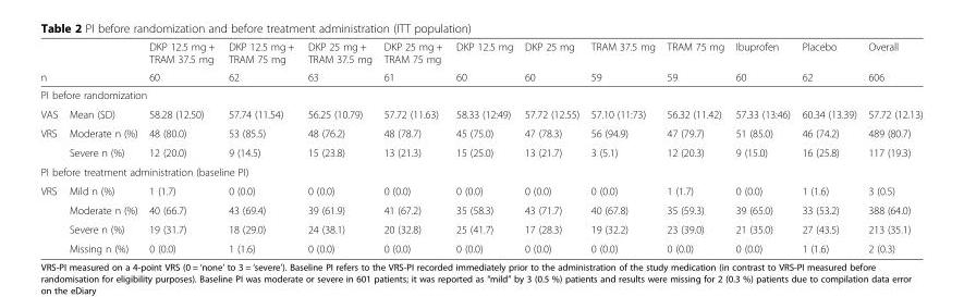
<table><thead><tr><td></td><td></td><td rowspan="2">DKP 12.5 mg + TRAM 37.5 mg 60</td><td rowspan="2">DKP 12.5 mg + TRAM 75 mg 62</td><td rowspan="2">DKP 25 mg + TRAM 37.5 mg 63</td><td rowspan="2">DKP 25 mg + TRAM 75 mg 61</td><td rowspan="2">DKP 12.5 mg 60</td><td rowspan="2">DKP 25 mg 60</td><td rowspan="2">TRAM 37.5 mg 59</td><td rowspan="2">TRAM 75 mg 59</td><td rowspan="2">Ibuprofen 60</td><td rowspan="2">Placebo 62</td><td rowspan="2">Overall 606</td></tr><tr><td colspan="2">n</td></tr></thead><tbody><tr><td colspan="13">PI before randomization</td></tr><tr><td>VAS</td><td>Mean (SD)</td><td>58.28 (12.50)</td><td>57.74 (11.54)</td><td>56.25 (10.79)</td><td>57.72 (11.63)</td><td>58.33 (12:49)</td><td>57.72 (12.55)</td><td>57.10 (11:73)</td><td>56.32 (11.42)</td><td>57.33 (13:46)</td><td>60.34 (13.39)</td><td>57.72 (12.13)</td></tr><tr><td rowspan="2">VRS</td><td>Moderate n (%)</td><td>48 (80.0)</td><td>53 (85.5)</td><td>48 (76.2)</td><td>48 (78.7)</td><td>45 (75.0)</td><td>47 (78.3)</td><td>56 (94.9)</td><td>47 (79.7)</td><td>51 (85.0)</td><td>46 (74.2)</td><td>489 (80.7)</td></tr><tr><td>Severe n (%)</td><td>12 (20.0)</td><td>9 (14.5)</td><td>15 (23.8)</td><td>13 (21.3)</td><td>15 (25.0)</td><td>13 (21.7)</td><td>3 (5.1)</td><td>12 (20.3)</td><td>9 (15.0)</td><td>16 (25.8)</td><td>117 (19.3)</td></tr><tr><td colspan="13">PI before treatment administration (baseline PI)</td></tr><tr><td rowspan="4">VRS</td><td>Mild n (%)</td><td>1 (1.7)</td><td>0 (0.0)</td><td>0 (0.0)</td><td>0 (0.0)</td><td>0 (0.0)</td><td>0 (0.0)</td><td>0 (0.0)</td><td>1 (1.7)</td><td>0 (0.0)</td><td>1 (1.6)</td><td>3 (0.5)</td></tr><tr><td>Moderate n (%)</td><td>40 (66.7)</td><td>43 (69.4)</td><td>39 (61.9)</td><td>41 (67.2)</td><td>35 (58.3)</td><td>43 (71.7)</td><td>40 (67.8)</td><td>35 (59.3)</td><td>39 (65.0)</td><td>33 (53.2)</td><td>388 (64.0)</td></tr><tr><td>Severe n (%)</td><td>19 (31.7)</td><td>18 (29.0)</td><td>24 (38.1)</td><td>20 (32.8)</td><td>25 (41.7)</td><td>17 (28.3)</td><td>19 (32.2)</td><td>23 (39.0)</td><td>21 (35.0)</td><td>27 (43.5)</td><td>213 (35.1)</td></tr><tr><td>Missing n (%)</td><td>0 (0.0)</td><td>1 (1.6)</td><td>0 (0.0)</td><td>0 (0.0)</td><td>0 (0.0)</td><td>0 (0.0)</td><td>0 (0.0)</td><td>0 (0.0)</td><td>0 (0.0)</td><td>1 (1.6)</td><td>2 (0.3)</td></tr></tbody></table>